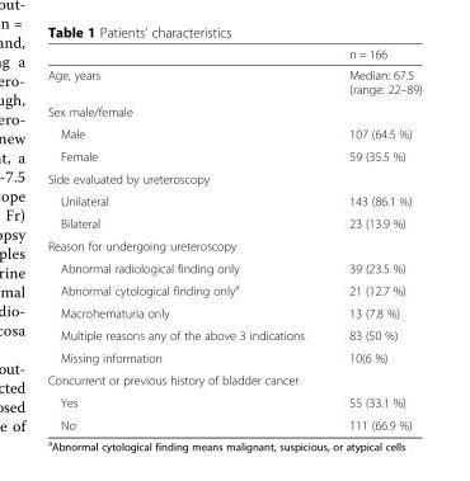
<table><thead><tr><td></td><td>n = 166</td></tr></thead><tbody><tr><td>Age, years</td><td>Median: 67.5 (range: 22–89)</td></tr><tr><td colspan="2">Sex male/female</td></tr><tr><td>Male</td><td>107 (64.5 %)</td></tr><tr><td>Female</td><td>59 (35.5 %)</td></tr><tr><td colspan="2">Side evaluated by ureteroscopy</td></tr><tr><td>Unilateral</td><td>143 (86.1 %)</td></tr><tr><td>Bilateral</td><td>23 (13.9 %)</td></tr><tr><td colspan="2">Reason for undergoing ureteroscopy</td></tr><tr><td>Abnormal radiological finding only</td><td>39 (23.5 %)</td></tr><tr><td>Abnormal cytological finding only<sup>a</sup></td><td>21 (12.7 %)</td></tr><tr><td>Macrohematuria only</td><td>13 (7.8 %)</td></tr><tr><td>Multiple reasons any of the above 3 indications</td><td>83 (50 %)</td></tr><tr><td>Missing information</td><td>10(6 %)</td></tr><tr><td colspan="2">Concurrent or previous history of bladder cancer</td></tr><tr><td>Yes</td><td>55 (33.1 %)</td></tr><tr><td>No</td><td>111 (66.9 %)</td></tr></tbody></table>